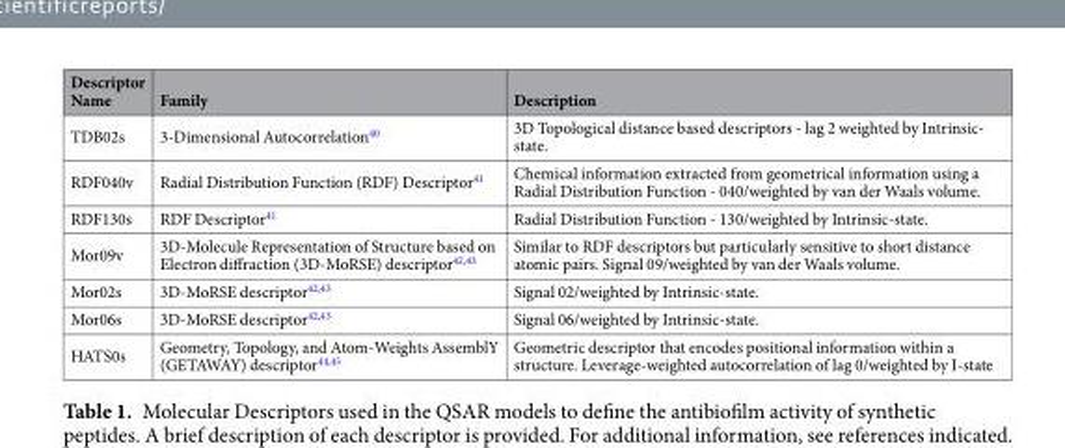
<table><thead><tr><td>Descriptor Name</td><td>Family</td><td>Description</td></tr></thead><tbody><tr><td>TDB02s</td><td>3-Dimensional Autocorrelation<sup>40</sup></td><td>3D Topological distance based descriptors - lag 2 weighted by Intrinsic- state.</td></tr><tr><td>RDF040v</td><td>Radial Distribution Function (RDF) Descriptor<sup>41</sup></td><td>Chemical information extracted from geometrical information using a Radial Distribution Function - 040/weighted by van der Waals volume.</td></tr><tr><td>RDF130s</td><td>RDF Descriptor<sup>41</sup></td><td>Radial Distribution Function - 130/weighted by Intrinsic-state.</td></tr><tr><td>Mor09v</td><td>3D-Molecule Representation of Structure based on Electron diffraction (3D-MoRSE) descriptor<sup>42,43</sup></td><td>Similar to RDF descriptors but particularly sensitive to short distance atomic pairs. Signal 09/weighted by van der Waals volume.</td></tr><tr><td>Mor02s</td><td>3D-MoRSE descriptor<sup>42,43</sup></td><td>Signal 02/weighted by Intrinsic-state.</td></tr><tr><td>Mor06s</td><td>3D-MoRSE descriptor<sup>42,43</sup></td><td>Signal 06/weighted by Intrinsic-state.</td></tr><tr><td>HATS0s</td><td>Geometry, Topology, and Atom-Weights AssemblY (GETAWAY) descriptor<sup>44,45</sup></td><td>Geometric descriptor that encodes positional information within a structure. Leverage-weighted autocorrelation of lag 0/weighted by I-state</td></tr></tbody></table>